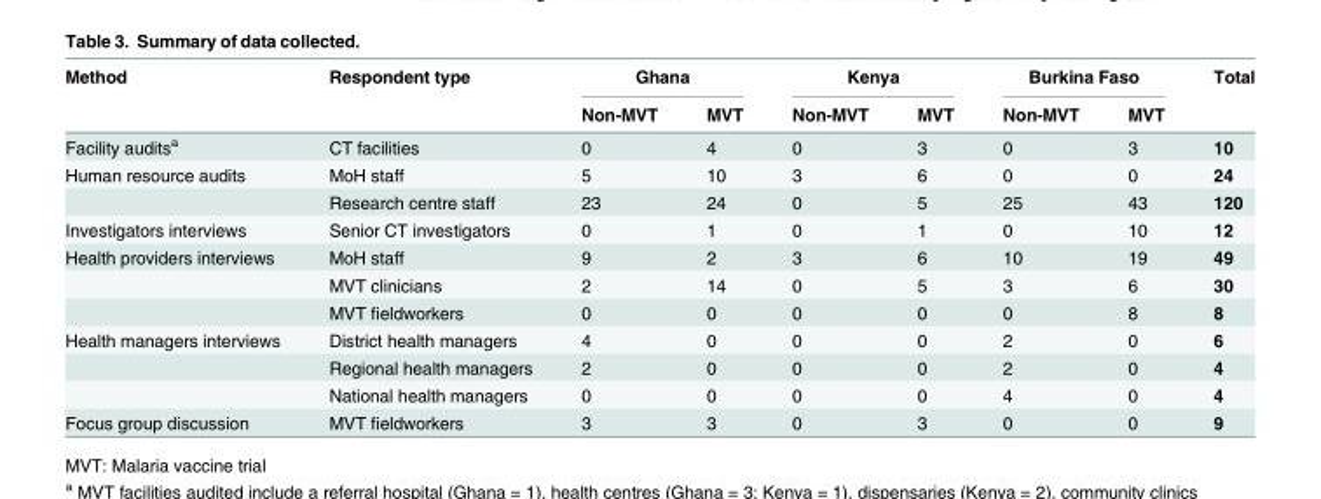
<table><thead><tr><td rowspan="2">Method</td><td rowspan="2">Respondent type</td><td colspan="2">Ghana</td><td colspan="2">Kenya</td><td colspan="2">Burkina Faso</td><td rowspan="2">Total</td></tr><tr><td>Non-MVT</td><td>MVT</td><td>Non-MVT</td><td>MVT</td><td>Non-MVT</td><td>MVT</td></tr></thead><tbody><tr><td>Facility audits<sup>a</sup></td><td>CT facilities</td><td>0</td><td>4</td><td>0</td><td>3</td><td>0</td><td>3</td><td>10</td></tr><tr><td rowspan="2">Human resource audits</td><td>MoH staff</td><td>5</td><td>10</td><td>3</td><td>6</td><td>0</td><td>0</td><td>24</td></tr><tr><td>Research centre staff</td><td>23</td><td>24</td><td>0</td><td>5</td><td>25</td><td>43</td><td>120</td></tr><tr><td>Investigators interviews</td><td>Senior CT investigators</td><td>0</td><td>1</td><td>0</td><td>1</td><td>0</td><td>10</td><td>12</td></tr><tr><td rowspan="3">Health providers interviews</td><td>MoH staff</td><td>9</td><td>2</td><td>3</td><td>6</td><td>10</td><td>19</td><td>49</td></tr><tr><td>MVT clinicians</td><td>2</td><td>14</td><td>0</td><td>5</td><td>3</td><td>6</td><td>30</td></tr><tr><td>MVT fieldworkers</td><td>0</td><td>0</td><td>0</td><td>0</td><td>0</td><td>8</td><td>8</td></tr><tr><td rowspan="3">Health managers interviews</td><td>District health managers</td><td>4</td><td>0</td><td>0</td><td>0</td><td>2</td><td>0</td><td>6</td></tr><tr><td>Regional health managers</td><td>2</td><td>0</td><td>0</td><td>0</td><td>2</td><td>0</td><td>4</td></tr><tr><td>National health managers</td><td>0</td><td>0</td><td>0</td><td>0</td><td>4</td><td>0</td><td>4</td></tr><tr><td>Focus group discussion</td><td>MVT fieldworkers</td><td>3</td><td>3</td><td>0</td><td>3</td><td>0</td><td>0</td><td>9</td></tr></tbody></table>